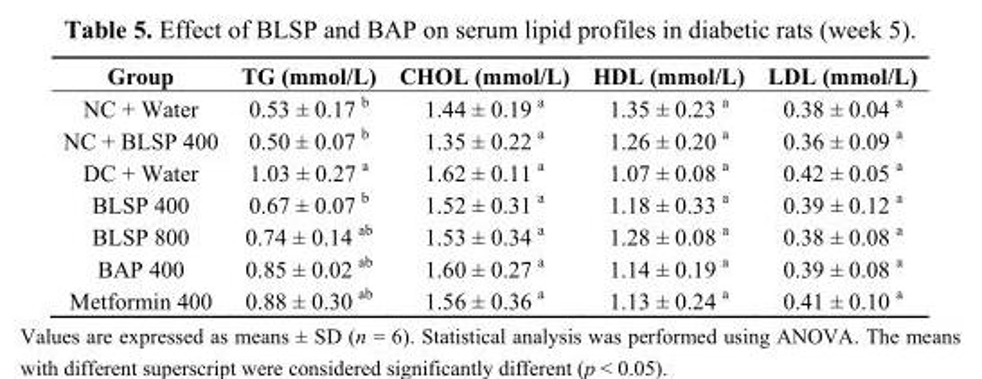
<table><thead><tr><td>Group</td><td>TG (mmol/L)</td><td>CHOL (mmol/L)</td><td>HDL (mmol/L)</td><td>LDL (mmol/L)</td></tr></thead><tbody><tr><td>NC + Water</td><td>0.53 ± 0.17 <sup>b</sup></td><td>1.44 ± 0.19 <sup>a</sup></td><td>1.35 ± 0.23 <sup>a</sup></td><td>0.38 ± 0.04 <sup>a</sup></td></tr><tr><td>NC + BLSP 400</td><td>0.50 ± 0.07 <sup>b</sup></td><td>1.35 ± 0.22 <sup>a</sup></td><td>1.26 ± 0.20 <sup>a</sup></td><td>0.36 ± 0.09 <sup>a</sup></td></tr><tr><td>DC + Water</td><td>1.03 ± 0.27 <sup>a</sup></td><td>1.62 ± 0.11 <sup>a</sup></td><td>1.07 ± 0.08 <sup>a</sup></td><td>0.42 ± 0.05 <sup>a</sup></td></tr><tr><td>BLSP 400</td><td>0.67 ± 0.07 <sup>b</sup></td><td>1.52 ± 0.31 <sup>a</sup></td><td>1.18 ± 0.33 <sup>a</sup></td><td>0.39 ± 0.12 <sup>a</sup></td></tr><tr><td>BLSP 800</td><td>0.74 ± 0.14 <sup>ab</sup></td><td>1.53 ± 0.34 <sup>a</sup></td><td>1.28 ± 0.08 <sup>a</sup></td><td>0.38 ± 0.08 <sup>a</sup></td></tr><tr><td>BAP 400</td><td>0.85 ± 0.02 <sup>ab</sup></td><td>1.60 ± 0.27 <sup>a</sup></td><td>1.14 ± 0.19 <sup>a</sup></td><td>0.39 ± 0.08 <sup>a</sup></td></tr><tr><td>Metformin 400</td><td>0.88 ± 0.30 <sup>ab</sup></td><td>1.56 ± 0.36 <sup>a</sup></td><td>1.13 ± 0.24 <sup>a</sup></td><td>0.41 ± 0.10 <sup>a</sup></td></tr></tbody></table>